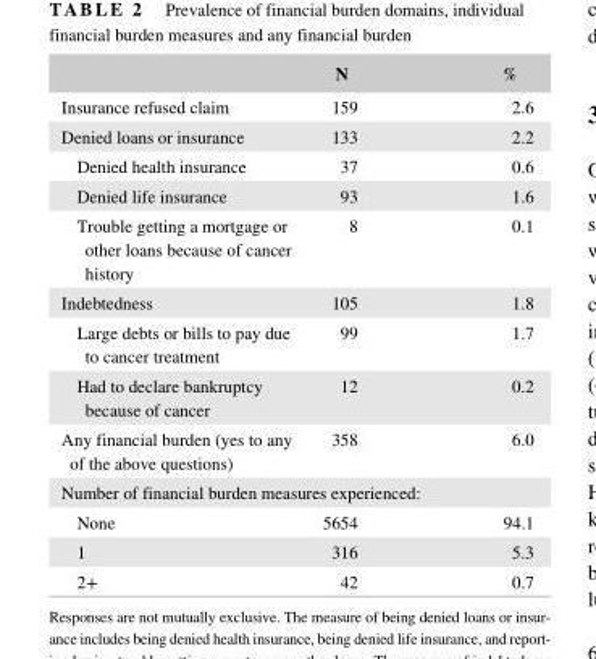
<table><thead><tr><td></td><td>N</td><td>%</td></tr></thead><tbody><tr><td>Insurance refused claim</td><td>159</td><td>2.6</td></tr><tr><td>Denied loans or insurance</td><td>133</td><td>2.2</td></tr><tr><td>Denied health insurance</td><td>37</td><td>0.6</td></tr><tr><td>Denied life insurance</td><td>93</td><td>1.6</td></tr><tr><td>Trouble getting a mortgage or other loans because of cancer history</td><td>8</td><td>0.1</td></tr><tr><td>Indebtedness</td><td>105</td><td>1.8</td></tr><tr><td>Large debts or bills to pay due to cancer treatment</td><td>99</td><td>1.7</td></tr><tr><td>Had to declare bankruptcy because of cancer</td><td>12</td><td>0.2</td></tr><tr><td>Any financial burden (yes to any of the above questions)</td><td>358</td><td>6.0</td></tr><tr><td colspan="3">Number of financial burden measures experienced:</td></tr><tr><td>None</td><td>5654</td><td>94.1</td></tr><tr><td>1</td><td>316</td><td>5.3</td></tr><tr><td>2+</td><td>42</td><td>0.7</td></tr></tbody></table>